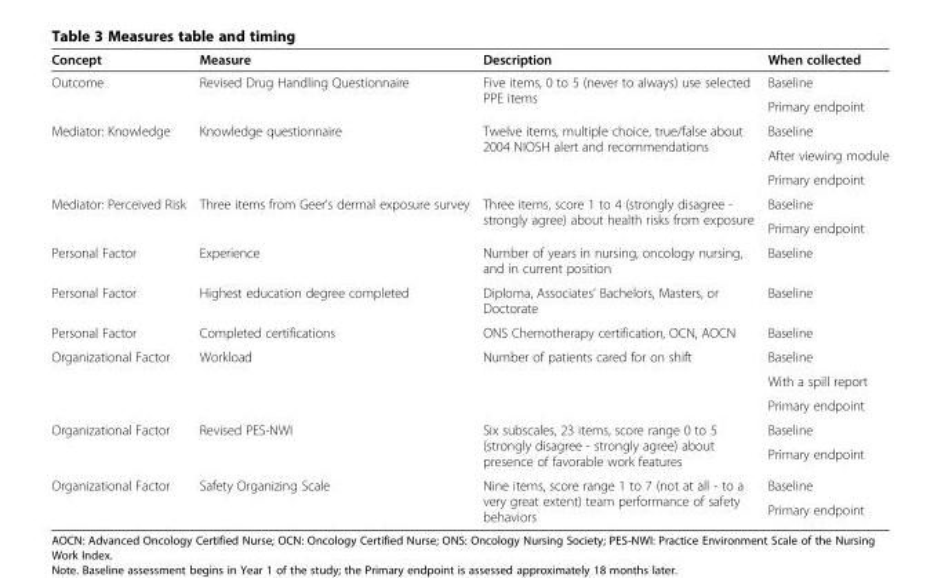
<table><thead><tr><td>Concept</td><td>Measure</td><td>Description</td><td>When collected</td></tr></thead><tbody><tr><td rowspan="2">Outcome</td><td rowspan="2">Revised Drug Handling Questionnaire</td><td rowspan="2">Five items, 0 to 5 (never to always) use selected PPE items</td><td>Baseline</td></tr><tr><td>Primary endpoint</td></tr><tr><td rowspan="3">Mediator: Knowledge</td><td rowspan="3">Knowledge questionnaire</td><td rowspan="3">Twelve items, multiple choice, true/false about 2004 NIOSH alert and recommendations</td><td>Baseline</td></tr><tr><td>After viewing module</td></tr><tr><td>Primary endpoint</td></tr><tr><td rowspan="2">Mediator: Perceived Risk</td><td rowspan="2">Three items from Geer’s dermal exposure survey</td><td rowspan="2">Three items, score 1 to 4 (strongly disagree - strongly agree) about health risks from exposure</td><td>Baseline</td></tr><tr><td>Primary endpoint</td></tr><tr><td>Personal Factor</td><td>Experience</td><td>Number of years in nursing, oncology nursing, and in current position</td><td>Baseline</td></tr><tr><td>Personal Factor</td><td>Highest education degree completed</td><td>Diploma, Associates’ Bachelors, Masters, or Doctorate</td><td>Baseline</td></tr><tr><td>Personal Factor</td><td>Completed certifications</td><td>ONS Chemotherapy certification, OCN, AOCN</td><td>Baseline</td></tr><tr><td rowspan="3">Organizational Factor</td><td rowspan="3">Workload</td><td rowspan="3">Number of patients cared for on shift</td><td>Baseline</td></tr><tr><td>With a spill report</td></tr><tr><td>Primary endpoint</td></tr><tr><td rowspan="2">Organizational Factor</td><td rowspan="2">Revised PES-NWI</td><td rowspan="2">Six subscales, 23 items, score range 0 to 5 (strongly disagree - strongly agree) about presence of favorable work features</td><td>Baseline</td></tr><tr><td>Primary endpoint</td></tr><tr><td rowspan="2">Organizational Factor</td><td rowspan="2">Safety Organizing Scale</td><td rowspan="2">Nine items, score range 1 to 7 (not at all - to a very great extent) team performance of safety behaviors</td><td>Baseline</td></tr><tr><td>Primary endpoint</td></tr></tbody></table>